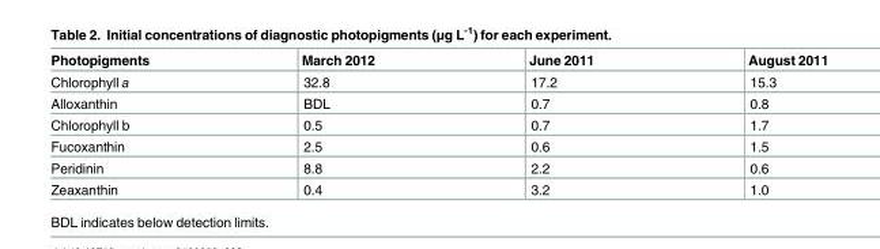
<table><thead><tr><td>Photopigments</td><td>March 2012</td><td>June 2011</td><td>August 2011</td></tr></thead><tbody><tr><td>Chlorophyll a</td><td>32.8</td><td>17.2</td><td>15.3</td></tr><tr><td>Alloxanthin</td><td>BDL</td><td>0.7</td><td>0.8</td></tr><tr><td>Chlorophyll b</td><td>0.5</td><td>0.7</td><td>1.7</td></tr><tr><td>Fucoxanthin</td><td>2.5</td><td>0.6</td><td>1.5</td></tr><tr><td>Peridinin</td><td>8.8</td><td>2.2</td><td>0.6</td></tr><tr><td>Zeaxanthin</td><td>0.4</td><td>3.2</td><td>1.0</td></tr></tbody></table>